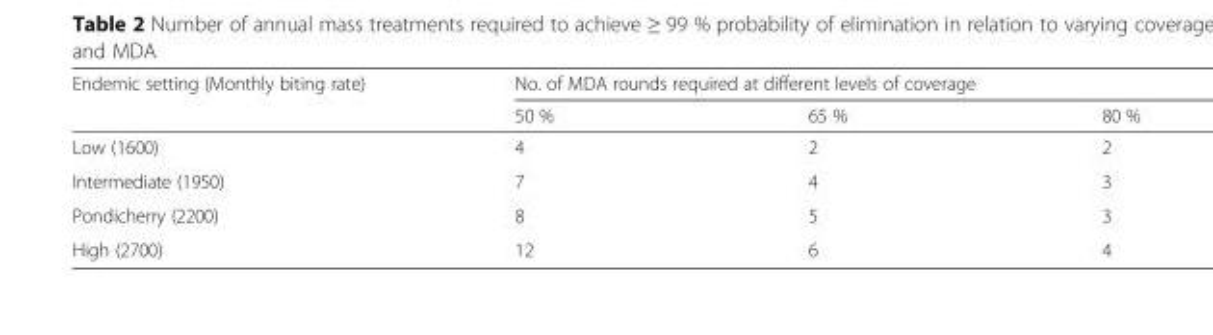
<table><thead><tr><td rowspan="2">Endemic setting (Monthly biting rate)</td><td colspan="3">No. of MDA rounds required at different levels of coverage</td></tr><tr><td>50 %</td><td>65 %</td><td>80 %</td></tr></thead><tbody><tr><td>Low (1600)</td><td>4</td><td>2</td><td>2</td></tr><tr><td>Intermediate (1950)</td><td>7</td><td>4</td><td>3</td></tr><tr><td>Pondicherry (2200)</td><td>8</td><td>5</td><td>3</td></tr><tr><td>High (2700)</td><td>12</td><td>6</td><td>4</td></tr></tbody></table>